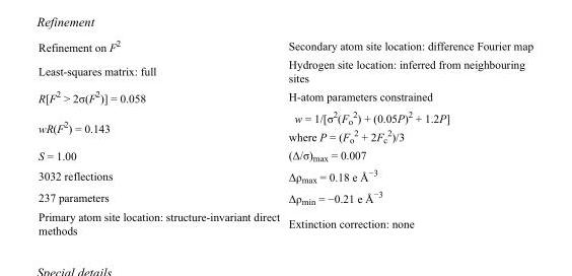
<table><tbody><tr><td>Refinement on F<sup>2</sup></td><td>Secondary atom site location: difference Fourier map</td></tr><tr><td>Least-squares matrix: full</td><td>Hydrogen site location: inferred from neighbouring sites</td></tr><tr><td>R[F<sup>2</sup> &gt; 2σ(F<sup>2</sup>)] = 0.058</td><td>H-atom parameters constrained</td></tr><tr><td>wR(F<sup>2</sup>) = 0.143</td><td>w = 1/[σ<sup>2</sup>(F<sub>o</sub> <sup>2</sup>) + (0.05P)<sup>2</sup> + 1.2P] where P = (F<sub>o</sub> <sup>2</sup> + 2F<sub>c</sub> <sup>2</sup>)/3</td></tr><tr><td>S = 1.00</td><td>(Δ/σ)<sub>max</sub> = 0.007</td></tr><tr><td>3032 reflections</td><td>Δρ<sub>max</sub> = 0.18 e Å<sup>−3</sup></td></tr><tr><td>237 parameters</td><td>Δρ<sub>min</sub> = −0.21 e Å<sup>−3</sup></td></tr><tr><td>Primary atom site location: structure-invariant direct methods</td><td>Extinction correction: none</td></tr></tbody></table>